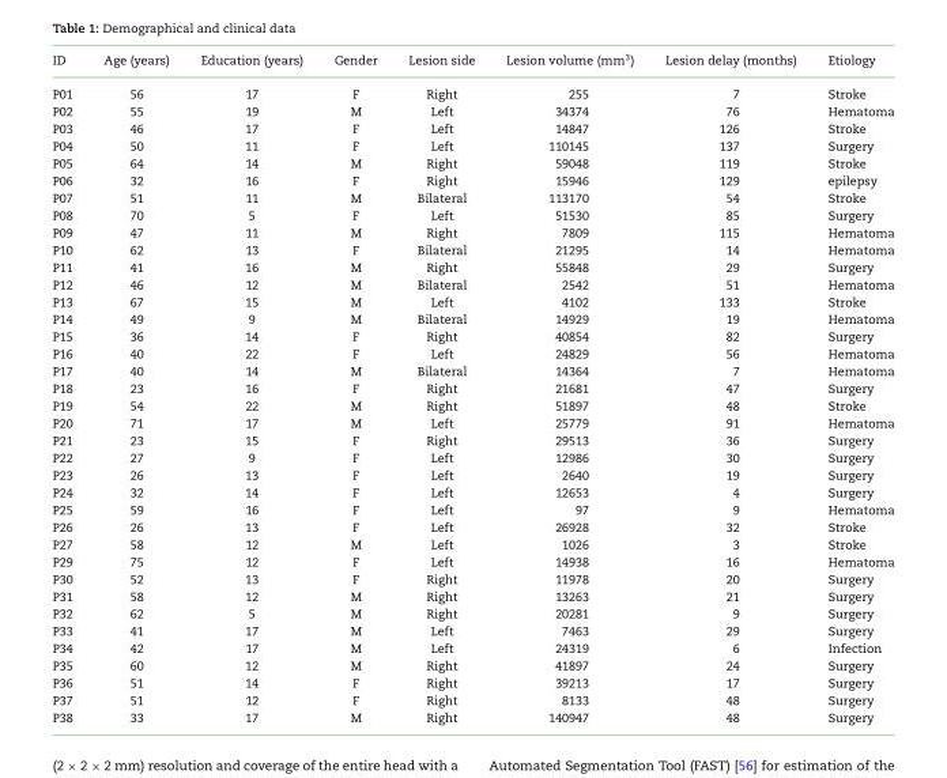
<table><thead><tr><td>ID</td><td>Age (years)</td><td>Education (years)</td><td>Gender</td><td>Lesion side</td><td>Lesion volume (mm<sup>3</sup>)</td><td>Lesion delay (months)</td><td>Etiology</td></tr></thead><tbody><tr><td>P01</td><td>56</td><td>17</td><td>F</td><td>Right</td><td>255</td><td>7</td><td>Stroke</td></tr><tr><td>P02</td><td>55</td><td>19</td><td>M</td><td>Left</td><td>34374</td><td>76</td><td>Hematoma</td></tr><tr><td>P03</td><td>46</td><td>17</td><td>F</td><td>Left</td><td>14847</td><td>126</td><td>Stroke</td></tr><tr><td>P04</td><td>50</td><td>11</td><td>F</td><td>Left</td><td>110145</td><td>137</td><td>Surgery</td></tr><tr><td>P05</td><td>64</td><td>14</td><td>M</td><td>Right</td><td>59048</td><td>119</td><td>Stroke</td></tr><tr><td>P06</td><td>32</td><td>16</td><td>F</td><td>Right</td><td>15946</td><td>129</td><td>epilepsy</td></tr><tr><td>P07</td><td>51</td><td>11</td><td>M</td><td>Bilateral</td><td>113170</td><td>54</td><td>Stroke</td></tr><tr><td>P08</td><td>70</td><td>5</td><td>F</td><td>Left</td><td>51530</td><td>85</td><td>Surgery</td></tr><tr><td>P09</td><td>47</td><td>11</td><td>M</td><td>Right</td><td>7809</td><td>115</td><td>Hematoma</td></tr><tr><td>P10</td><td>62</td><td>13</td><td>F</td><td>Bilateral</td><td>21295</td><td>14</td><td>Hematoma</td></tr><tr><td>P11</td><td>41</td><td>16</td><td>M</td><td>Right</td><td>55848</td><td>29</td><td>Surgery</td></tr><tr><td>P12</td><td>46</td><td>12</td><td>M</td><td>Bilateral</td><td>2542</td><td>51</td><td>Hematoma</td></tr><tr><td>P13</td><td>67</td><td>15</td><td>M</td><td>Left</td><td>4102</td><td>133</td><td>Stroke</td></tr><tr><td>P14</td><td>49</td><td>9</td><td>M</td><td>Bilateral</td><td>14929</td><td>19</td><td>Hematoma</td></tr><tr><td>P15</td><td>36</td><td>14</td><td>F</td><td>Right</td><td>40854</td><td>82</td><td>Surgery</td></tr><tr><td>P16</td><td>40</td><td>22</td><td>F</td><td>Left</td><td>24829</td><td>56</td><td>Hematoma</td></tr><tr><td>P17</td><td>40</td><td>14</td><td>M</td><td>Bilateral</td><td>14364</td><td>7</td><td>Hematoma</td></tr><tr><td>P18</td><td>23</td><td>16</td><td>F</td><td>Right</td><td>21681</td><td>47</td><td>Surgery</td></tr><tr><td>P19</td><td>54</td><td>22</td><td>M</td><td>Right</td><td>51897</td><td>48</td><td>Stroke</td></tr><tr><td>P20</td><td>71</td><td>17</td><td>M</td><td>Left</td><td>25779</td><td>91</td><td>Hematoma</td></tr><tr><td>P21</td><td>23</td><td>15</td><td>F</td><td>Right</td><td>29513</td><td>36</td><td>Surgery</td></tr><tr><td>P22</td><td>27</td><td>9</td><td>F</td><td>Left</td><td>12986</td><td>30</td><td>Surgery</td></tr><tr><td>P23</td><td>26</td><td>13</td><td>F</td><td>Left</td><td>2640</td><td>19</td><td>Surgery</td></tr><tr><td>P24</td><td>32</td><td>14</td><td>F</td><td>Left</td><td>12653</td><td>4</td><td>Surgery</td></tr><tr><td>P25</td><td>59</td><td>16</td><td>F</td><td>Left</td><td>97</td><td>9</td><td>Hematoma</td></tr><tr><td>P26</td><td>26</td><td>13</td><td>F</td><td>Left</td><td>26928</td><td>32</td><td>Stroke</td></tr><tr><td>P27</td><td>58</td><td>12</td><td>M</td><td>Left</td><td>1026</td><td>3</td><td>Stroke</td></tr><tr><td>P29</td><td>75</td><td>12</td><td>F</td><td>Left</td><td>14938</td><td>16</td><td>Hematoma</td></tr><tr><td>P30</td><td>52</td><td>13</td><td>F</td><td>Right</td><td>11978</td><td>20</td><td>Surgery</td></tr><tr><td>P31</td><td>58</td><td>12</td><td>M</td><td>Right</td><td>13263</td><td>21</td><td>Surgery</td></tr><tr><td>P32</td><td>62</td><td>5</td><td>M</td><td>Right</td><td>20281</td><td>9</td><td>Surgery</td></tr><tr><td>P33</td><td>41</td><td>17</td><td>M</td><td>Left</td><td>7463</td><td>29</td><td>Surgery</td></tr><tr><td>P34</td><td>42</td><td>17</td><td>M</td><td>Left</td><td>24319</td><td>6</td><td>Infection</td></tr><tr><td>P35</td><td>60</td><td>12</td><td>M</td><td>Right</td><td>41897</td><td>24</td><td>Surgery</td></tr><tr><td>P36</td><td>51</td><td>14</td><td>F</td><td>Right</td><td>39213</td><td>17</td><td>Surgery</td></tr><tr><td>P37</td><td>51</td><td>12</td><td>F</td><td>Right</td><td>8133</td><td>48</td><td>Surgery</td></tr><tr><td>P38</td><td>33</td><td>17</td><td>M</td><td>Right</td><td>140947</td><td>48</td><td>Surgery</td></tr></tbody></table>